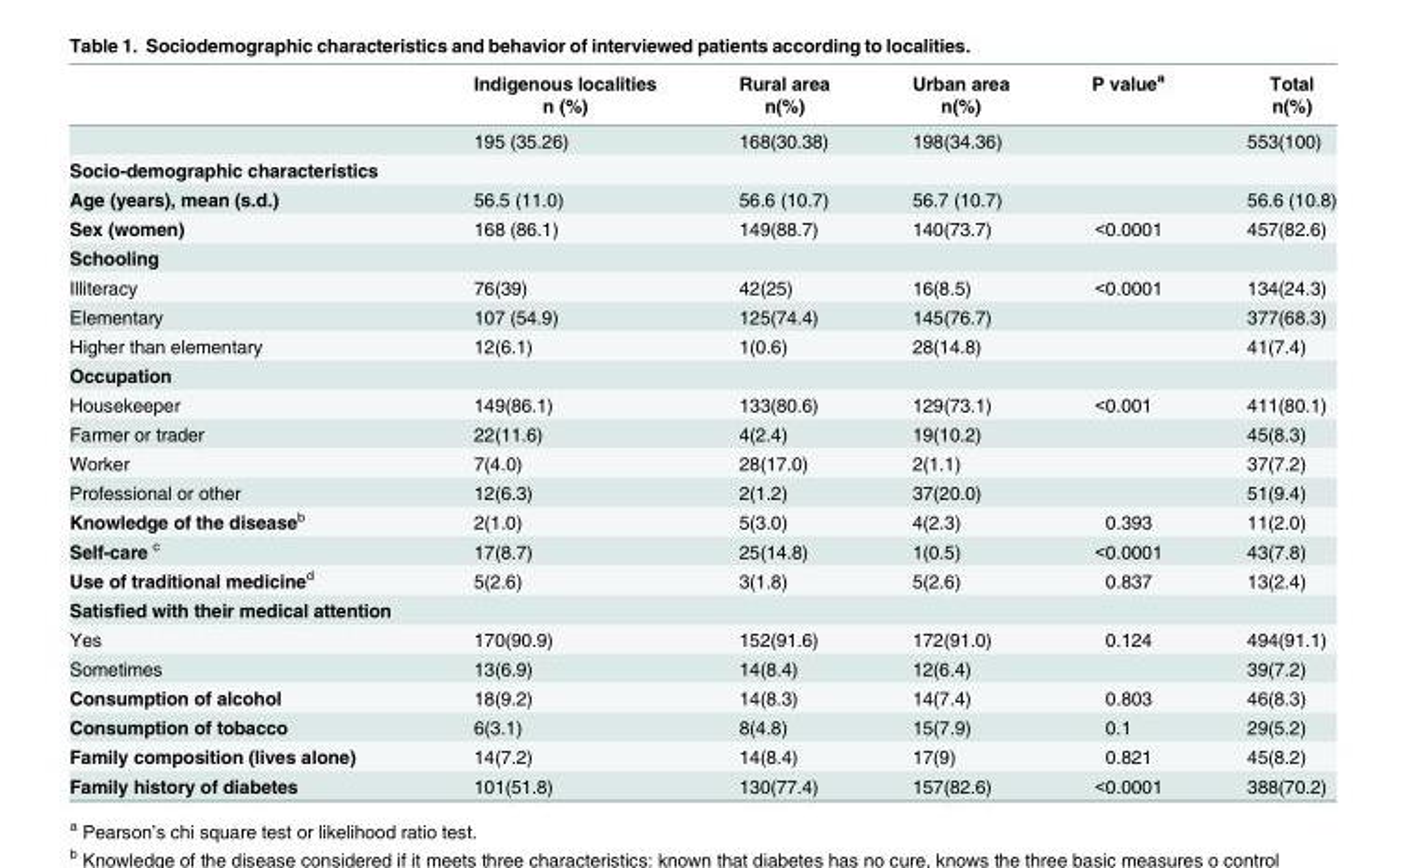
<table><thead><tr><td rowspan="2"></td><td rowspan="2">Indigenous localities n (%)</td><td rowspan="2">Rural area n(%)</td><td rowspan="2">Urban area n(%)</td><td rowspan="2">P value<sup>a</sup></td><td rowspan="2">Total n(%)</td></tr><tr></tr></thead><tbody><tr><td></td><td>195 (35.26)</td><td>168(30.38)</td><td>198(34.36)</td><td></td><td>553(100)</td></tr><tr><td colspan="6">Socio-demographic characteristics</td></tr><tr><td>Age (years), mean (s.d.)</td><td>56.5 (11.0)</td><td>56.6 (10.7)</td><td>56.7 (10.7)</td><td></td><td>56.6 (10.8)</td></tr><tr><td>Sex (women)</td><td>168 (86.1)</td><td>149(88.7)</td><td>140(73.7)</td><td>&lt;0.0001</td><td>457(82.6)</td></tr><tr><td colspan="6">Schooling</td></tr><tr><td>Illiteracy</td><td>76(39)</td><td>42(25)</td><td>16(8.5)</td><td>&lt;0.0001</td><td>134(24.3)</td></tr><tr><td>Elementary</td><td>107 (54.9)</td><td>125(74.4)</td><td>145(76.7)</td><td></td><td>377(68.3)</td></tr><tr><td>Higher than elementary</td><td>12(6.1)</td><td>1(0.6)</td><td>28(14.8)</td><td></td><td>41(7.4)</td></tr><tr><td colspan="6">Occupation</td></tr><tr><td>Housekeeper</td><td>149(86.1)</td><td>133(80.6)</td><td>129(73.1)</td><td>&lt;0.001</td><td>411(80.1)</td></tr><tr><td>Farmer or trader</td><td>22(11.6)</td><td>4(2.4)</td><td>19(10.2)</td><td></td><td>45(8.3)</td></tr><tr><td>Worker</td><td>7(4.0)</td><td>28(17.0)</td><td>2(1.1)</td><td></td><td>37(7.2)</td></tr><tr><td>Professional or other</td><td>12(6.3)</td><td>2(1.2)</td><td>37(20.0)</td><td></td><td>51(9.4)</td></tr><tr><td>Knowledge of the disease<sup>b</sup></td><td>2(1.0)</td><td>5(3.0)</td><td>4(2.3)</td><td>0.393</td><td>11(2.0)</td></tr><tr><td>Self-care <sup>c</sup></td><td>17(8.7)</td><td>25(14.8)</td><td>1(0.5)</td><td>&lt;0.0001</td><td>43(7.8)</td></tr><tr><td>Use of traditional medicine<sup>d</sup></td><td>5(2.6)</td><td>3(1.8)</td><td>5(2.6)</td><td>0.837</td><td>13(2.4)</td></tr><tr><td colspan="6">Satisfied with their medical attention</td></tr><tr><td>Yes</td><td>170(90.9)</td><td>152(91.6)</td><td>172(91.0)</td><td>0.124</td><td>494(91.1)</td></tr><tr><td>Sometimes</td><td>13(6.9)</td><td>14(8.4)</td><td>12(6.4)</td><td></td><td>39(7.2)</td></tr><tr><td>Consumption of alcohol</td><td>18(9.2)</td><td>14(8.3)</td><td>14(7.4)</td><td>0.803</td><td>46(8.3)</td></tr><tr><td>Consumption of tobacco</td><td>6(3.1)</td><td>8(4.8)</td><td>15(7.9)</td><td>0.1</td><td>29(5.2)</td></tr><tr><td>Family composition (lives alone)</td><td>14(7.2)</td><td>14(8.4)</td><td>17(9)</td><td>0.821</td><td>45(8.2)</td></tr><tr><td>Family history of diabetes</td><td>101(51.8)</td><td>130(77.4)</td><td>157(82.6)</td><td>&lt;0.0001</td><td>388(70.2)</td></tr></tbody></table>